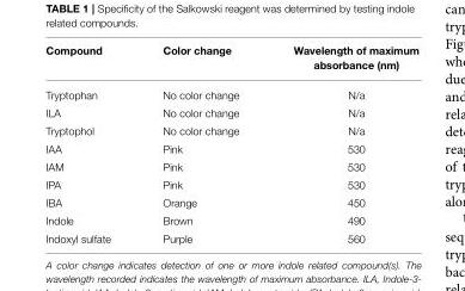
<table><thead><tr><td>Compound</td><td>Color change</td><td>Wavelength of maximum absorbance (nm)</td></tr></thead><tbody><tr><td>Tryptophan</td><td>No color change</td><td>N/a</td></tr><tr><td>ILA</td><td>No color change</td><td>N/a</td></tr><tr><td>Tryptophol</td><td>No color change</td><td>N/a</td></tr><tr><td>IAA</td><td>Pink</td><td>530</td></tr><tr><td>IAM</td><td>Pink</td><td>530</td></tr><tr><td>IPA</td><td>Pink</td><td>530</td></tr><tr><td>IBA</td><td>Orange</td><td>450</td></tr><tr><td>Indole</td><td>Brown</td><td>490</td></tr><tr><td>Indoxyl sulfate</td><td>Purple</td><td>560</td></tr></tbody></table>